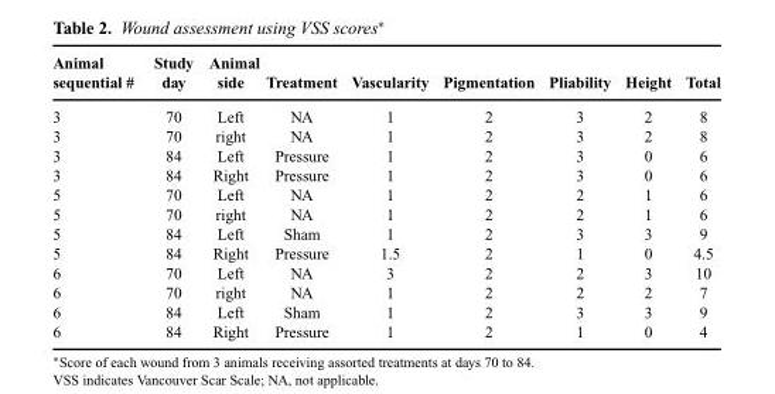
<table><thead><tr><td>Animal sequential #</td><td>Study day</td><td>Animal side</td><td>Treatment</td><td>Vascularity</td><td>Pigmentation</td><td>Pliability</td><td>Height</td><td>Total</td></tr></thead><tbody><tr><td>3</td><td>70</td><td>Left</td><td>NA</td><td>1</td><td>2</td><td>3</td><td>2</td><td>8</td></tr><tr><td>3</td><td>70</td><td>right</td><td>NA</td><td>1</td><td>2</td><td>3</td><td>2</td><td>8</td></tr><tr><td>3</td><td>84</td><td>Left</td><td>Pressure</td><td>1</td><td>2</td><td>3</td><td>0</td><td>6</td></tr><tr><td>3</td><td>84</td><td>Right</td><td>Pressure</td><td>1</td><td>2</td><td>3</td><td>0</td><td>6</td></tr><tr><td>5</td><td>70</td><td>Left</td><td>NA</td><td>1</td><td>2</td><td>2</td><td>1</td><td>6</td></tr><tr><td>5</td><td>70</td><td>right</td><td>NA</td><td>1</td><td>2</td><td>2</td><td>1</td><td>6</td></tr><tr><td>5</td><td>84</td><td>Left</td><td>Sham</td><td>1</td><td>2</td><td>3</td><td>3</td><td>9</td></tr><tr><td>5</td><td>84</td><td>Right</td><td>Pressure</td><td>1.5</td><td>2</td><td>1</td><td>0</td><td>4.5</td></tr><tr><td>6</td><td>70</td><td>Left</td><td>NA</td><td>3</td><td>2</td><td>2</td><td>3</td><td>10</td></tr><tr><td>6</td><td>70</td><td>right</td><td>NA</td><td>1</td><td>2</td><td>2</td><td>2</td><td>7</td></tr><tr><td>6</td><td>84</td><td>Left</td><td>Sham</td><td>1</td><td>2</td><td>3</td><td>3</td><td>9</td></tr><tr><td>6</td><td>84</td><td>Right</td><td>Pressure</td><td>1</td><td>2</td><td>1</td><td>0</td><td>4</td></tr></tbody></table>